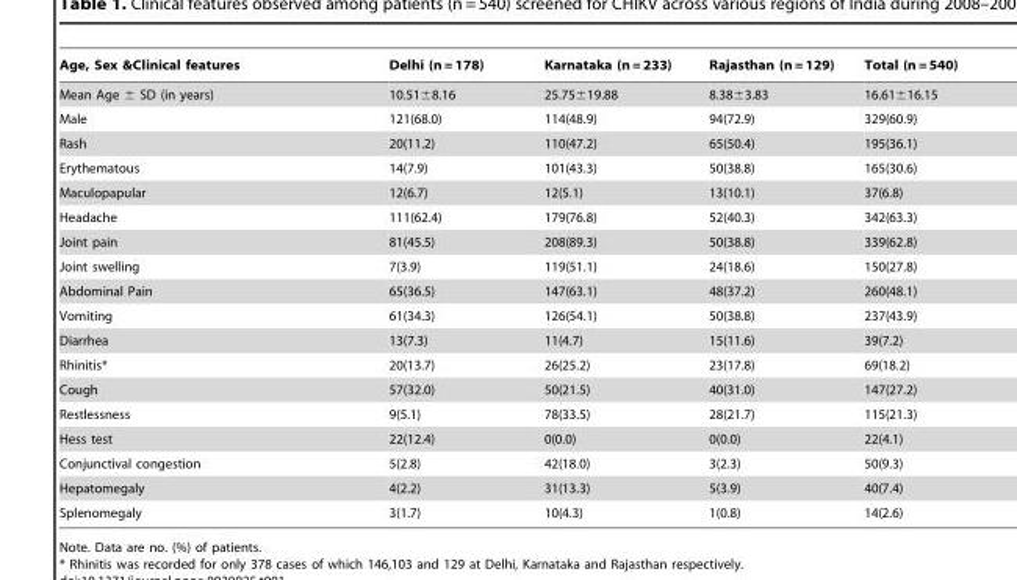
<table><thead><tr><td>Age, Sex &amp;Clinical features</td><td>Delhi (n = 178)</td><td>Karnataka (n = 233)</td><td>Rajasthan (n = 129)</td><td>Total (n = 540)</td></tr></thead><tbody><tr><td>Mean Age ± SD (in years)</td><td>10.51±8.16</td><td>25.75±19.88</td><td>8.38±3.83</td><td>16.61±16.15</td></tr><tr><td>Male</td><td>121(68.0)</td><td>114(48.9)</td><td>94(72.9)</td><td>329(60.9)</td></tr><tr><td>Rash</td><td>20(11.2)</td><td>110(47.2)</td><td>65(50.4)</td><td>195(36.1)</td></tr><tr><td>Erythematous</td><td>14(7.9)</td><td>101(43.3)</td><td>50(38.8)</td><td>165(30.6)</td></tr><tr><td>Maculopapular</td><td>12(6.7)</td><td>12(5.1)</td><td>13(10.1)</td><td>37(6.8)</td></tr><tr><td>Headache</td><td>111(62.4)</td><td>179(76.8)</td><td>52(40.3)</td><td>342(63.3)</td></tr><tr><td>Joint pain</td><td>81(45.5)</td><td>208(89.3)</td><td>50(38.8)</td><td>339(62.8)</td></tr><tr><td>Joint swelling</td><td>7(3.9)</td><td>119(51.1)</td><td>24(18.6)</td><td>150(27.8)</td></tr><tr><td>Abdominal Pain</td><td>65(36.5)</td><td>147(63.1)</td><td>48(37.2)</td><td>260(48.1)</td></tr><tr><td>Vomiting</td><td>61(34.3)</td><td>126(54.1)</td><td>50(38.8)</td><td>237(43.9)</td></tr><tr><td>Diarrhea</td><td>13(7.3)</td><td>11(4.7)</td><td>15(11.6)</td><td>39(7.2)</td></tr><tr><td>Rhinitis*</td><td>20(13.7)</td><td>26(25.2)</td><td>23(17.8)</td><td>69(18.2)</td></tr><tr><td>Cough</td><td>57(32.0)</td><td>50(21.5)</td><td>40(31.0)</td><td>147(27.2)</td></tr><tr><td>Restlessness</td><td>9(5.1)</td><td>78(33.5)</td><td>28(21.7)</td><td>115(21.3)</td></tr><tr><td>Hess test</td><td>22(12.4)</td><td>0(0.0)</td><td>0(0.0)</td><td>22(4.1)</td></tr><tr><td>Conjunctival congestion</td><td>5(2.8)</td><td>42(18.0)</td><td>3(2.3)</td><td>50(9.3)</td></tr><tr><td>Hepatomegaly</td><td>4(2.2)</td><td>31(13.3)</td><td>5(3.9)</td><td>40(7.4)</td></tr><tr><td>Splenomegaly</td><td>3(1.7)</td><td>10(4.3)</td><td>1(0.8)</td><td>14(2.6)</td></tr></tbody></table>